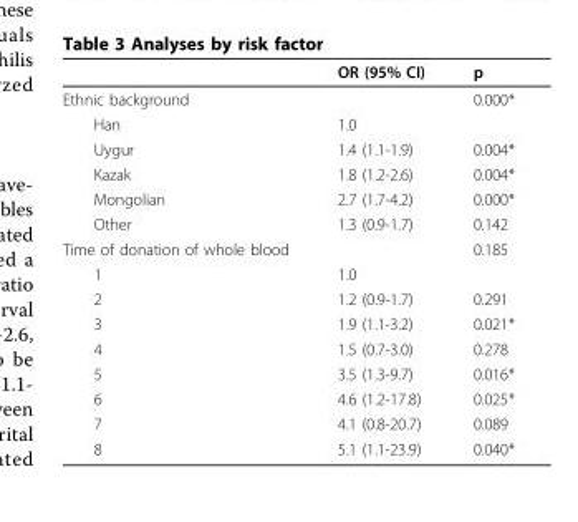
<table><thead><tr><td></td><td>OR (95% CI)</td><td>p</td></tr></thead><tbody><tr><td>Ethnic background</td><td></td><td>0.000*</td></tr><tr><td>Han</td><td>1.0</td><td></td></tr><tr><td>Uygur</td><td>1.4 (1.1-1.9)</td><td>0.004*</td></tr><tr><td>Kazak</td><td>1.8 (1.2-2.6)</td><td>0.004*</td></tr><tr><td>Mongolian</td><td>2.7 (1.7-4.2)</td><td>0.000*</td></tr><tr><td>Other</td><td>1.3 (0.9-1.7)</td><td>0.142</td></tr><tr><td>Time of donation of whole blood</td><td></td><td>0.185</td></tr><tr><td>1</td><td>1.0</td><td></td></tr><tr><td>2</td><td>1.2 (0.9-1.7)</td><td>0.291</td></tr><tr><td>3</td><td>1.9 (1.1-3.2)</td><td>0.021*</td></tr><tr><td>4</td><td>1.5 (0.7-3.0)</td><td>0.278</td></tr><tr><td>5</td><td>3.5 (1.3-9.7)</td><td>0.016*</td></tr><tr><td>6</td><td>4.6 (1.2-17.8)</td><td>0.025*</td></tr><tr><td>7</td><td>4.1 (0.8-20.7)</td><td>0.089</td></tr><tr><td>8</td><td>5.1 (1.1-23.9)</td><td>0.040*</td></tr></tbody></table>